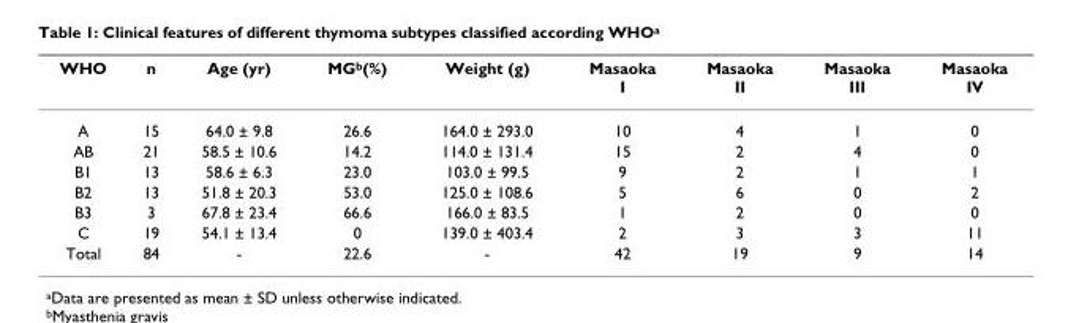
<table><thead><tr><td>WHO</td><td>n</td><td>Age (yr)</td><td>MG<sup>b</sup>(%)</td><td>Weight (g)</td><td>Masaoka I</td><td>Masaoka II</td><td>Masaoka III</td><td>Masaoka IV</td></tr></thead><tbody><tr><td>A</td><td>15</td><td>64.0 ± 9.8</td><td>26.6</td><td>164.0 ± 293.0</td><td>10</td><td>4</td><td>1</td><td>0</td></tr><tr><td>AB</td><td>21</td><td>58.5 ± 10.6</td><td>14.2</td><td>114.0 ± 131.4</td><td>15</td><td>2</td><td>4</td><td>0</td></tr><tr><td>B1</td><td>13</td><td>58.6 ± 6.3</td><td>23.0</td><td>103.0 ± 99.5</td><td>9</td><td>2</td><td>1</td><td>1</td></tr><tr><td>B2</td><td>13</td><td>51.8 ± 20.3</td><td>53.0</td><td>125.0 ± 108.6</td><td>5</td><td>6</td><td>0</td><td>2</td></tr><tr><td>B3</td><td>3</td><td>67.8 ± 23.4</td><td>66.6</td><td>166.0 ± 83.5</td><td>1</td><td>2</td><td>0</td><td>0</td></tr><tr><td>C</td><td>19</td><td>54.1 ± 13.4</td><td>0</td><td>139.0 ± 403.4</td><td>2</td><td>3</td><td>3</td><td>11</td></tr><tr><td>Total</td><td>84</td><td>-</td><td>22.6</td><td>-</td><td>42</td><td>19</td><td>9</td><td>14</td></tr></tbody></table>